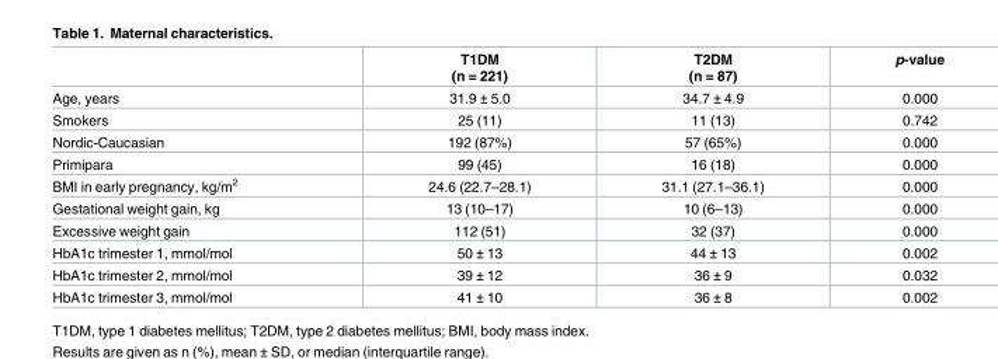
<table><thead><tr><td></td><td>T1DM (n = 221)</td><td>T2DM (n = 87)</td><td>p-value</td></tr></thead><tbody><tr><td>Age, years</td><td>31.9 ± 5.0</td><td>34.7 ± 4.9</td><td>0.000</td></tr><tr><td>Smokers</td><td>25 (11)</td><td>11 (13)</td><td>0.742</td></tr><tr><td>Nordic-Caucasian</td><td>192 (87%)</td><td>57 (65%)</td><td>0.000</td></tr><tr><td>Primipara</td><td>99 (45)</td><td>16 (18)</td><td>0.000</td></tr><tr><td>BMI in early pregnancy, kg/m<sup>2</sup></td><td>24.6 (22.7–28.1)</td><td>31.1 (27.1–36.1)</td><td>0.000</td></tr><tr><td>Gestational weight gain, kg</td><td>13 (10–17)</td><td>10 (6–13)</td><td>0.000</td></tr><tr><td>Excessive weight gain</td><td>112 (51)</td><td>32 (37)</td><td>0.000</td></tr><tr><td>HbA1c trimester 1, mmol/mol</td><td>50 ± 13</td><td>44 ± 13</td><td>0.002</td></tr><tr><td>HbA1c trimester 2, mmol/mol</td><td>39 ± 12</td><td>36 ± 9</td><td>0.032</td></tr><tr><td>HbA1c trimester 3, mmol/mol</td><td>41 ± 10</td><td>36 ± 8</td><td>0.002</td></tr></tbody></table>